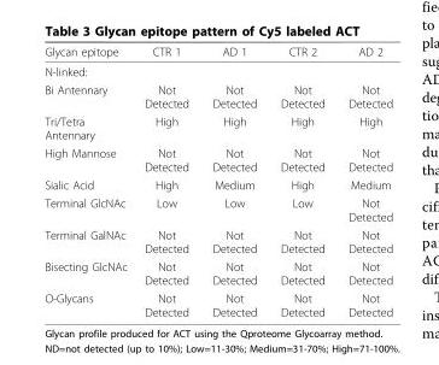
<table><thead><tr><td>Glycan epitope</td><td>CTR 1</td><td>AD 1</td><td>CTR 2</td><td>AD 2</td></tr></thead><tbody><tr><td colspan="5">N-linked:</td></tr><tr><td>Bi Antennary</td><td>Not Detected</td><td>Not Detected</td><td>Not Detected</td><td>Not Detected</td></tr><tr><td>Tri/Tetra Antennary</td><td>High</td><td>High</td><td>High</td><td>High</td></tr><tr><td>High Mannose</td><td>Not Detected</td><td>Not Detected</td><td>Not Detected</td><td>Not Detected</td></tr><tr><td>Sialic Acid</td><td>High</td><td>Medium</td><td>High</td><td>Medium</td></tr><tr><td>Terminal GlcNAc</td><td>Low</td><td>Low</td><td>Low</td><td>Not Detected</td></tr><tr><td>Terminal GalNAc</td><td>Not Detected</td><td>Not Detected</td><td>Not Detected</td><td>Not Detected</td></tr><tr><td>Bisecting GlcNAc</td><td>Not Detected</td><td>Not Detected</td><td>Not Detected</td><td>Not Detected</td></tr><tr><td>O-Glycans</td><td>Not Detected</td><td>Not Detected</td><td>Not Detected</td><td>Not Detected</td></tr></tbody></table>